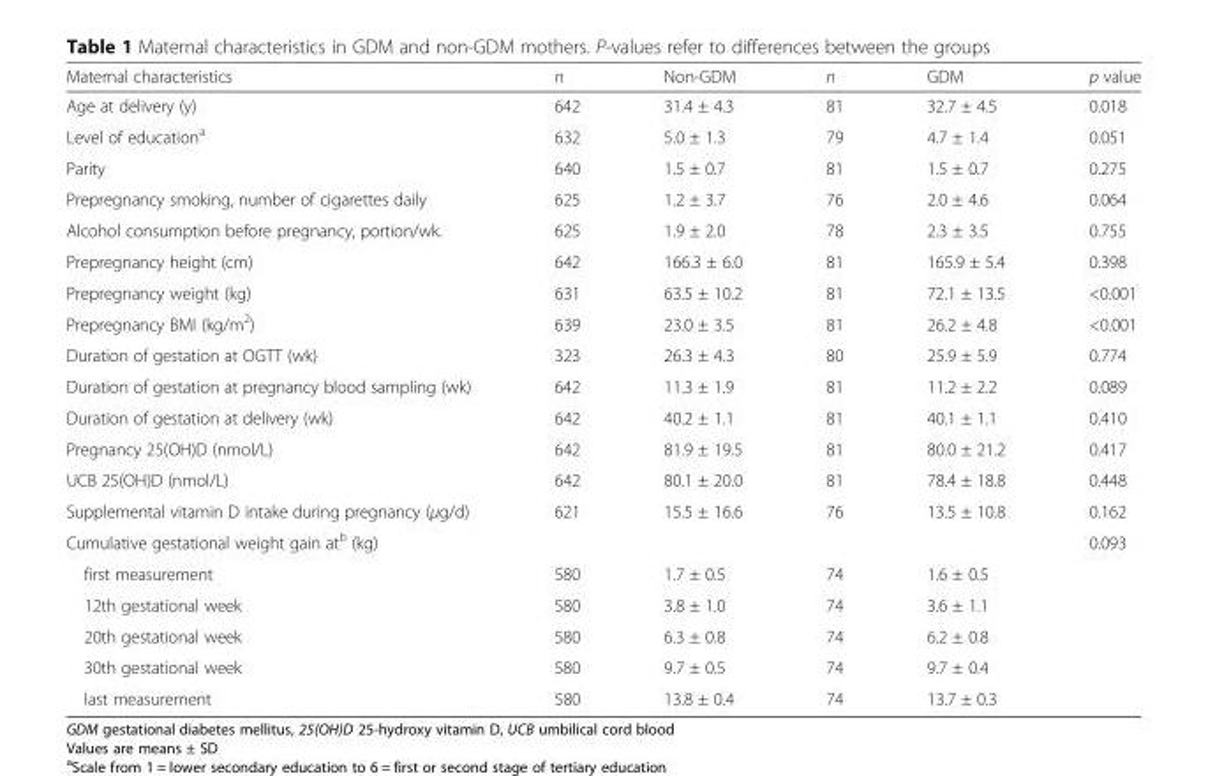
<table><thead><tr><td>Maternal characteristics</td><td>n</td><td>Non-GDM</td><td>n</td><td>GDM</td><td>p value</td></tr></thead><tbody><tr><td>Age at delivery (y)</td><td>642</td><td>31.4 ± 4.3</td><td>81</td><td>32.7 ± 4.5</td><td>0.018</td></tr><tr><td>Level of education<sup>a</sup></td><td>632</td><td>5.0 ± 1.3</td><td>79</td><td>4.7 ± 1.4</td><td>0.051</td></tr><tr><td>Parity</td><td>640</td><td>1.5 ± 0.7</td><td>81</td><td>1.5 ± 0.7</td><td>0.275</td></tr><tr><td>Prepregnancy smoking, number of cigarettes daily</td><td>625</td><td>1.2 ± 3.7</td><td>76</td><td>2.0 ± 4.6</td><td>0.064</td></tr><tr><td>Alcohol consumption before pregnancy, portion/wk.</td><td>625</td><td>1.9 ± 2.0</td><td>78</td><td>2.3 ± 3.5</td><td>0.755</td></tr><tr><td>Prepregnancy height (cm)</td><td>642</td><td>166.3 ± 6.0</td><td>81</td><td>165.9 ± 5.4</td><td>0.398</td></tr><tr><td>Prepregnancy weight (kg)</td><td>631</td><td>63.5 ± 10.2</td><td>81</td><td>72.1 ± 13.5</td><td>&lt;0.001</td></tr><tr><td>Prepregnancy BMI (kg/m<sup>2</sup>)</td><td>639</td><td>23.0 ± 3.5</td><td>81</td><td>26.2 ± 4.8</td><td>&lt;0.001</td></tr><tr><td>Duration of gestation at OGTT (wk)</td><td>323</td><td>26.3 ± 4.3</td><td>80</td><td>25.9 ± 5.9</td><td>0.774</td></tr><tr><td>Duration of gestation at pregnancy blood sampling (wk)</td><td>642</td><td>11.3 ± 1.9</td><td>81</td><td>11.2 ± 2.2</td><td>0.089</td></tr><tr><td>Duration of gestation at delivery (wk)</td><td>642</td><td>40.2 ± 1.1</td><td>81</td><td>40.1 ± 1.1</td><td>0.410</td></tr><tr><td>Pregnancy 25(OH)D (nmol/L)</td><td>642</td><td>81.9 ± 19.5</td><td>81</td><td>80.0 ± 21.2</td><td>0.417</td></tr><tr><td>UCB 25(OH)D (nmol/L)</td><td>642</td><td>80.1 ± 20.0</td><td>81</td><td>78.4 ± 18.8</td><td>0.448</td></tr><tr><td>Supplemental vitamin D intake during pregnancy (μg/d)</td><td>621</td><td>15.5 ± 16.6</td><td>76</td><td>13.5 ± 10.8</td><td>0.162</td></tr><tr><td colspan="5">Cumulative gestational weight gain at<sup>b</sup> (kg)</td><td>0.093</td></tr><tr><td>first measurement</td><td>580</td><td>1.7 ± 0.5</td><td>74</td><td>1.6 ± 0.5</td><td></td></tr><tr><td>12th gestational week</td><td>580</td><td>3.8 ± 1.0</td><td>74</td><td>3.6 ± 1.1</td><td></td></tr><tr><td>20th gestational week</td><td>580</td><td>6.3 ± 0.8</td><td>74</td><td>6.2 ± 0.8</td><td></td></tr><tr><td>30th gestational week</td><td>580</td><td>9.7 ± 0.5</td><td>74</td><td>9.7 ± 0.4</td><td></td></tr><tr><td>last measurement</td><td>580</td><td>13.8 ± 0.4</td><td>74</td><td>13.7 ± 0.3</td><td></td></tr></tbody></table>